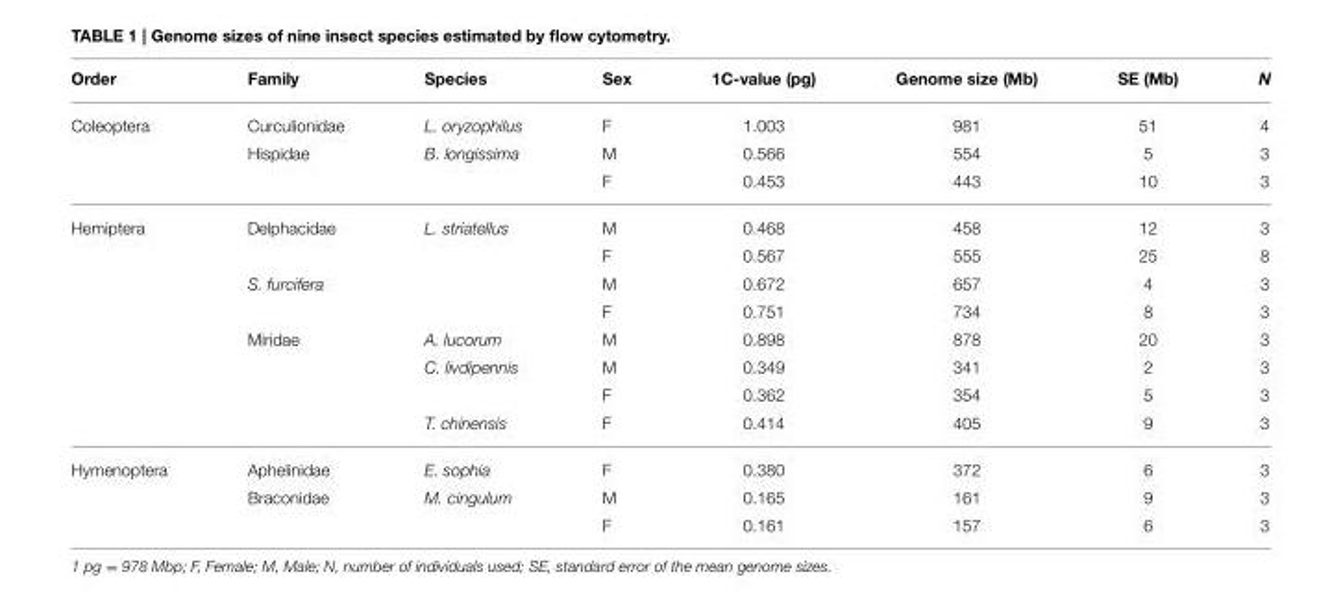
<table><thead><tr><td>Order</td><td>Family</td><td>Species</td><td>Sex</td><td>1C-value (pg)</td><td>Genome size (Mb)</td><td>SE (Mb)</td><td>N</td></tr></thead><tbody><tr><td rowspan="3">Coleoptera</td><td>Curculionidae</td><td>L. oryzophilus</td><td>F</td><td>1.003</td><td>981</td><td>51</td><td>4</td></tr><tr><td>Hispidae</td><td>B. longissima</td><td>M</td><td>0.566</td><td>554</td><td>5</td><td>3</td></tr><tr><td></td><td></td><td>F</td><td>0.453</td><td>443</td><td>10</td><td>3</td></tr><tr><td rowspan="8">Hemiptera</td><td>Delphacidae</td><td>L. striatellus</td><td>M</td><td>0.468</td><td>458</td><td>12</td><td>3</td></tr><tr><td></td><td></td><td>F</td><td>0.567</td><td>555</td><td>25</td><td>8</td></tr><tr><td>S. furcifera</td><td></td><td>M</td><td>0.672</td><td>657</td><td>4</td><td>3</td></tr><tr><td></td><td></td><td>F</td><td>0.751</td><td>734</td><td>8</td><td>3</td></tr><tr><td>Miridae</td><td>A. lucorum</td><td>M</td><td>0.898</td><td>878</td><td>20</td><td>3</td></tr><tr><td></td><td>C. livdipennis</td><td>M</td><td>0.349</td><td>341</td><td>2</td><td>3</td></tr><tr><td></td><td></td><td>F</td><td>0.362</td><td>354</td><td>5</td><td>3</td></tr><tr><td></td><td>T. chinensis</td><td>F</td><td>0.414</td><td>405</td><td>9</td><td>3</td></tr><tr><td rowspan="3">Hymenoptera</td><td>Aphelinidae</td><td>E. sophia</td><td>F</td><td>0.380</td><td>372</td><td>6</td><td>3</td></tr><tr><td>Braconidae</td><td>M. cingulum</td><td>M</td><td>0.165</td><td>161</td><td>9</td><td>3</td></tr><tr><td></td><td></td><td>F</td><td>0.161</td><td>157</td><td>6</td><td>3</td></tr></tbody></table>